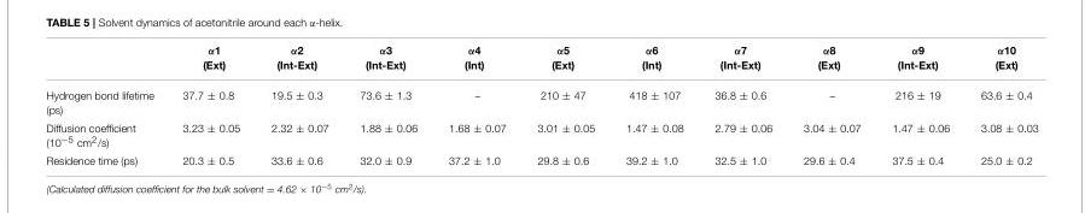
<table><thead><tr><td></td><td>α1 (Ext)</td><td>α2 (Int-Ext)</td><td>α3 (Int-Ext)</td><td>α4 (Int)</td><td>α5 (Ext)</td><td>α6 (Int)</td><td>α7 (Int-Ext)</td><td>α8 (Ext)</td><td>α9 (Int-Ext)</td><td>α10 (Ext)</td></tr></thead><tbody><tr><td>Hydrogen bond lifetime (ps)</td><td>37.7 ± 0.8</td><td>19.5 ± 0.3</td><td>73.6 ± 1.3</td><td>–</td><td>210 ± 47</td><td>418 ± 107</td><td>36.8 ± 0.6</td><td>–</td><td>216 ± 19</td><td>63.6 ± 0.4</td></tr><tr><td>Diffusion coefficient (10<sup>−5</sup> cm<sup>2</sup>/s)</td><td>3.23 ± 0.05</td><td>2.32 ± 0.07</td><td>1.88 ± 0.06</td><td>1.68 ± 0.07</td><td>3.01 ± 0.05</td><td>1.47 ± 0.08</td><td>2.79 ± 0.06</td><td>3.04 ± 0.07</td><td>1.47 ± 0.06</td><td>3.08 ± 0.03</td></tr><tr><td>Residence time (ps)</td><td>20.3 ± 0.5</td><td>33.6 ± 0.6</td><td>32.0 ± 0.9</td><td>37.2 ± 1.0</td><td>29.8 ± 0.6</td><td>39.2 ± 1.0</td><td>32.5 ± 1.0</td><td>29.6 ± 0.4</td><td>37.5 ± 0.4</td><td>25.0 ± 0.2</td></tr></tbody></table>